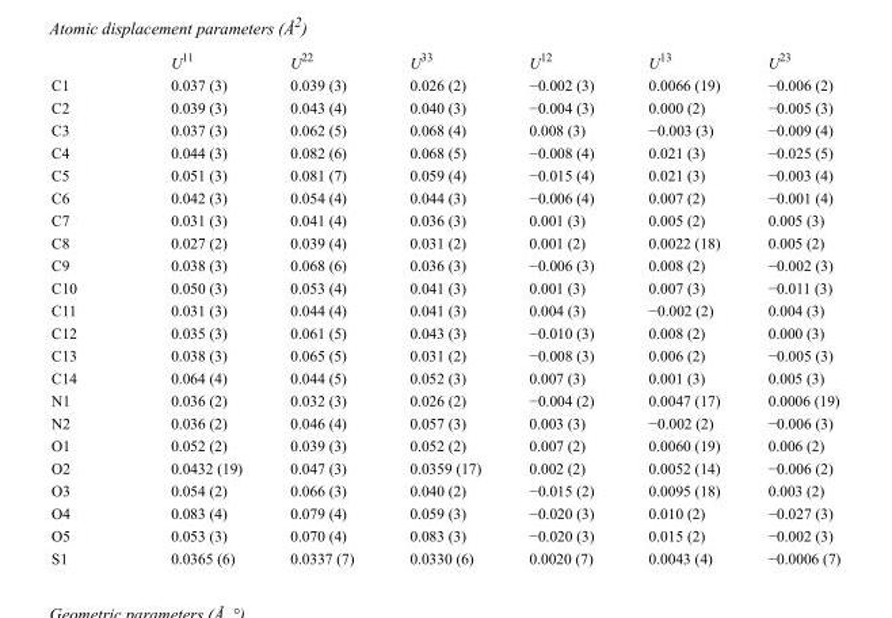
<table><thead><tr><td></td><td>U<sup>11</sup></td><td>U<sup>22</sup></td><td>U<sup>33</sup></td><td>U<sup>12</sup></td><td>U<sup>13</sup></td><td>U<sup>23</sup></td></tr></thead><tbody><tr><td>C1</td><td>0.037 (3)</td><td>0.039 (3)</td><td>0.026 (2)</td><td>−0.002 (3)</td><td>0.0066 (19)</td><td>−0.006 (2)</td></tr><tr><td>C2</td><td>0.039 (3)</td><td>0.043 (4)</td><td>0.040 (3)</td><td>−0.004 (3)</td><td>0.000 (2)</td><td>−0.005 (3)</td></tr><tr><td>C3</td><td>0.037 (3)</td><td>0.062 (5)</td><td>0.068 (4)</td><td>0.008 (3)</td><td>−0.003 (3)</td><td>−0.009 (4)</td></tr><tr><td>C4</td><td>0.044 (3)</td><td>0.082 (6)</td><td>0.068 (5)</td><td>−0.008 (4)</td><td>0.021 (3)</td><td>−0.025 (5)</td></tr><tr><td>C5</td><td>0.051 (3)</td><td>0.081 (7)</td><td>0.059 (4)</td><td>−0.015 (4)</td><td>0.021 (3)</td><td>−0.003 (4)</td></tr><tr><td>C6</td><td>0.042 (3)</td><td>0.054 (4)</td><td>0.044 (3)</td><td>−0.006 (4)</td><td>0.007 (2)</td><td>−0.001 (4)</td></tr><tr><td>C7</td><td>0.031 (3)</td><td>0.041 (4)</td><td>0.036 (3)</td><td>0.001 (3)</td><td>0.005 (2)</td><td>0.005 (3)</td></tr><tr><td>C8</td><td>0.027 (2)</td><td>0.039 (4)</td><td>0.031 (2)</td><td>0.001 (2)</td><td>0.0022 (18)</td><td>0.005 (2)</td></tr><tr><td>C9</td><td>0.038 (3)</td><td>0.068 (6)</td><td>0.036 (3)</td><td>−0.006 (3)</td><td>0.008 (2)</td><td>−0.002 (3)</td></tr><tr><td>C10</td><td>0.050 (3)</td><td>0.053 (4)</td><td>0.041 (3)</td><td>0.001 (3)</td><td>0.007 (3)</td><td>−0.011 (3)</td></tr><tr><td>C11</td><td>0.031 (3)</td><td>0.044 (4)</td><td>0.041 (3)</td><td>0.004 (3)</td><td>−0.002 (2)</td><td>0.004 (3)</td></tr><tr><td>C12</td><td>0.035 (3)</td><td>0.061 (5)</td><td>0.043 (3)</td><td>−0.010 (3)</td><td>0.008 (2)</td><td>0.000 (3)</td></tr><tr><td>C13</td><td>0.038 (3)</td><td>0.065 (5)</td><td>0.031 (2)</td><td>−0.008 (3)</td><td>0.006 (2)</td><td>−0.005 (3)</td></tr><tr><td>C14</td><td>0.064 (4)</td><td>0.044 (5)</td><td>0.052 (3)</td><td>0.007 (3)</td><td>0.001 (3)</td><td>0.005 (3)</td></tr><tr><td>N1</td><td>0.036 (2)</td><td>0.032 (3)</td><td>0.026 (2)</td><td>−0.004 (2)</td><td>0.0047 (17)</td><td>0.0006 (19)</td></tr><tr><td>N2</td><td>0.036 (2)</td><td>0.046 (4)</td><td>0.057 (3)</td><td>0.003 (3)</td><td>−0.002 (2)</td><td>−0.006 (3)</td></tr><tr><td>O1</td><td>0.052 (2)</td><td>0.039 (3)</td><td>0.052 (2)</td><td>0.007 (2)</td><td>0.0060 (19)</td><td>0.006 (2)</td></tr><tr><td>O2</td><td>0.0432 (19)</td><td>0.047 (3)</td><td>0.0359 (17)</td><td>0.002 (2)</td><td>0.0052 (14)</td><td>−0.006 (2)</td></tr><tr><td>O3</td><td>0.054 (2)</td><td>0.066 (3)</td><td>0.040 (2)</td><td>−0.015 (2)</td><td>0.0095 (18)</td><td>0.003 (2)</td></tr><tr><td>O4</td><td>0.083 (4)</td><td>0.079 (4)</td><td>0.059 (3)</td><td>−0.020 (3)</td><td>0.010 (2)</td><td>−0.027 (3)</td></tr><tr><td>O5</td><td>0.053 (3)</td><td>0.070 (4)</td><td>0.083 (3)</td><td>−0.020 (3)</td><td>0.015 (2)</td><td>−0.002 (3)</td></tr><tr><td>S1</td><td>0.0365 (6)</td><td>0.0337 (7)</td><td>0.0330 (6)</td><td>0.0020 (7)</td><td>0.0043 (4)</td><td>−0.0006 (7)</td></tr></tbody></table>